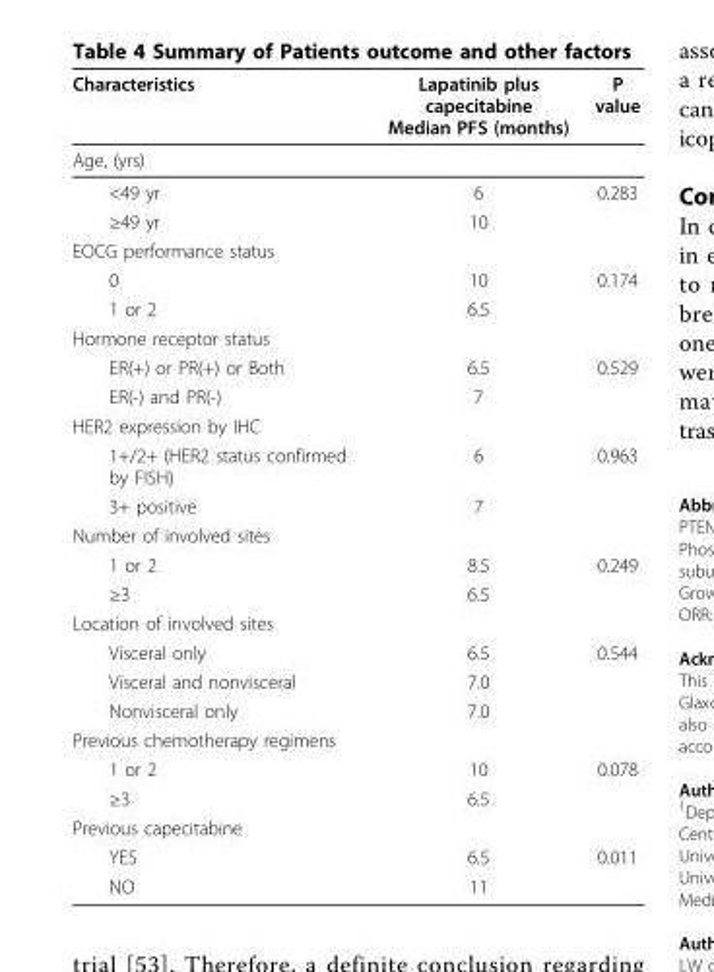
<table><thead><tr><td>Characteristics</td><td>Lapatinib plus capecitabine Median PFS (months)</td><td>P value</td></tr></thead><tbody><tr><td colspan="3">Age, (yrs)</td></tr><tr><td>&lt;49 yr</td><td>6</td><td>0.283</td></tr><tr><td>≥49 yr</td><td>10</td><td></td></tr><tr><td colspan="3">EOCG performance status</td></tr><tr><td>0</td><td>10</td><td>0.174</td></tr><tr><td>1 or 2</td><td>6.5</td><td></td></tr><tr><td colspan="3">Hormone receptor status</td></tr><tr><td>ER(+) or PR(+) or Both</td><td>6.5</td><td>0.529</td></tr><tr><td>ER(-) and PR(-)</td><td>7</td><td></td></tr><tr><td colspan="3">HER2 expression by IHC</td></tr><tr><td>1+/2+ (HER2 status confirmed by FISH)</td><td>6</td><td>0.963</td></tr><tr><td>3+ positive</td><td>7</td><td></td></tr><tr><td colspan="3">Number of involved sites</td></tr><tr><td>1 or 2</td><td>8.5</td><td>0.249</td></tr><tr><td>≥3</td><td>6.5</td><td></td></tr><tr><td colspan="3">Location of involved sites</td></tr><tr><td>Visceral only</td><td>6.5</td><td>0.544</td></tr><tr><td>Visceral and nonvisceral</td><td>7.0</td><td></td></tr><tr><td>Nonvisceral only</td><td>7.0</td><td></td></tr><tr><td colspan="3">Previous chemotherapy regimens</td></tr><tr><td>1 or 2</td><td>10</td><td>0.078</td></tr><tr><td>≥3</td><td>6.5</td><td></td></tr><tr><td colspan="3">Previous capecitabine</td></tr><tr><td>YES</td><td>6.5</td><td>0.011</td></tr><tr><td>NO</td><td>11</td><td></td></tr></tbody></table>